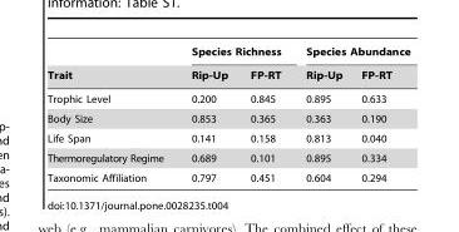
<table><thead><tr><td rowspan="2">Trait</td><td colspan="2">Species Richness</td><td colspan="2">Species Abundance</td></tr><tr><td>Rip-Up</td><td>FP-RT</td><td>Rip-Up</td><td>FP-RT</td></tr></thead><tbody><tr><td>Trophic Level</td><td>0.200</td><td>0.845</td><td>0.895</td><td>0.633</td></tr><tr><td>Body Size</td><td>0.853</td><td>0.365</td><td>0.363</td><td>0.190</td></tr><tr><td>Life Span</td><td>0.141</td><td>0.158</td><td>0.813</td><td>0.040</td></tr><tr><td>Thermoregulatory Regime</td><td>0.689</td><td>0.101</td><td>0.895</td><td>0.334</td></tr><tr><td>Taxonomic Affiliation</td><td>0.797</td><td>0.451</td><td>0.604</td><td>0.294</td></tr></tbody></table>